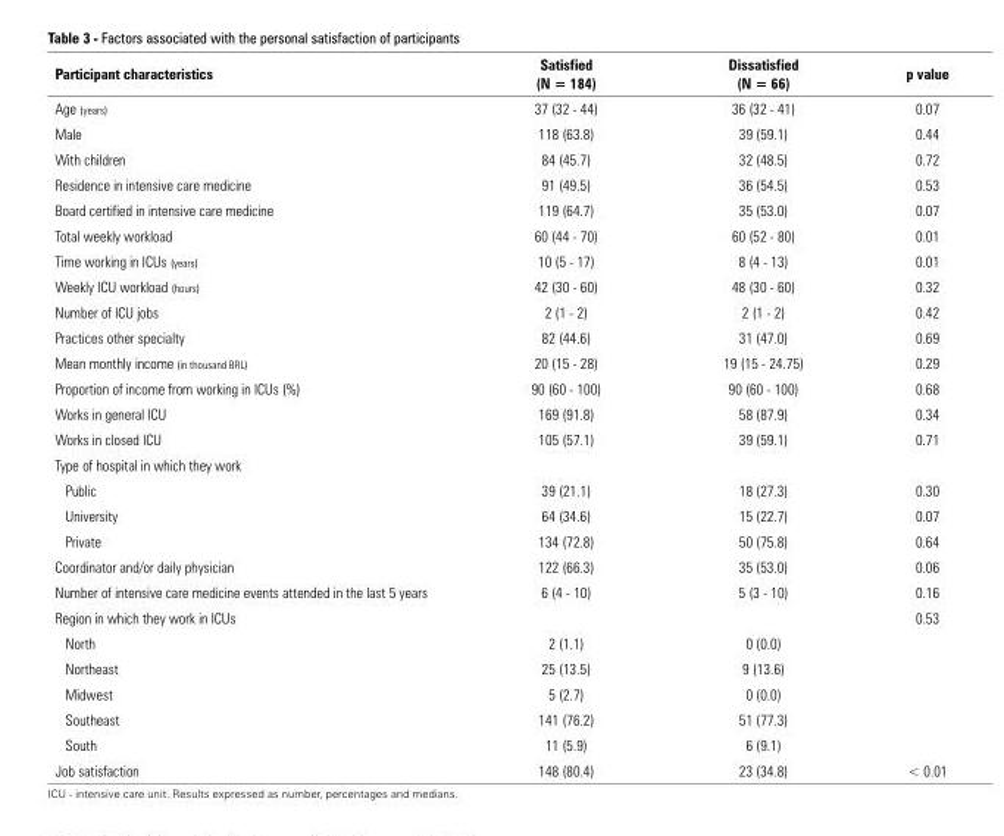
<table><thead><tr><td>Participant characteristics</td><td>Satisfied (N = 184)</td><td>Dissatisfied (N = 66)</td><td>p value</td></tr></thead><tbody><tr><td>Age (years)</td><td>37 (32 - 44)</td><td>36 (32 - 41)</td><td>0.07</td></tr><tr><td>Male</td><td>118 (63.8)</td><td>39 (59.1)</td><td>0.44</td></tr><tr><td>With children</td><td>84 (45.7)</td><td>32 (48.5)</td><td>0.72</td></tr><tr><td>Residence in intensive care medicine</td><td>91 (49.5)</td><td>36 (54.5)</td><td>0.53</td></tr><tr><td>Board certified in intensive care medicine</td><td>119 (64.7)</td><td>35 (53.0)</td><td>0.07</td></tr><tr><td>Total weekly workload</td><td>60 (44 - 70)</td><td>60 (52 - 80)</td><td>0.01</td></tr><tr><td>Time working in ICUs (years)</td><td>10 (5 - 17)</td><td>8 (4 - 13)</td><td>0.01</td></tr><tr><td>Weekly ICU workload (hours)</td><td>42 (30 - 60)</td><td>48 (30 - 60)</td><td>0.32</td></tr><tr><td>Number of ICU jobs</td><td>2 (1 - 2)</td><td>2 (1 - 2)</td><td>0.42</td></tr><tr><td>Practices other specialty</td><td>82 (44.6)</td><td>31 (47.0)</td><td>0.69</td></tr><tr><td>Mean monthly income (in thousand BRL)</td><td>20 (15 - 28)</td><td>19 (15 - 24.75)</td><td>0.29</td></tr><tr><td>Proportion of income from working in ICUs (%)</td><td>90 (60 - 100)</td><td>90 (60 - 100)</td><td>0.68</td></tr><tr><td>Works in general ICU</td><td>169 (91.8)</td><td>58 (87.9)</td><td>0.34</td></tr><tr><td>Works in closed ICU</td><td>105 (57.1)</td><td>39 (59.1)</td><td>0.71</td></tr><tr><td colspan="4">Type of hospital in which they work</td></tr><tr><td>Public</td><td>39 (21.1)</td><td>18 (27.3)</td><td>0.30</td></tr><tr><td>University</td><td>64 (34.6)</td><td>15 (22.7)</td><td>0.07</td></tr><tr><td>Private</td><td>134 (72.8)</td><td>50 (75.8)</td><td>0.64</td></tr><tr><td>Coordinator and/or daily physician</td><td>122 (66.3)</td><td>35 (53.0)</td><td>0.06</td></tr><tr><td>Number of intensive care medicine events attended in the last 5 years</td><td>6 (4 - 10)</td><td>5 (3 - 10)</td><td>0.16</td></tr><tr><td>Region in which they work in ICUs</td><td></td><td></td><td>0.53</td></tr><tr><td>North</td><td>2 (1.1)</td><td>0 (0.0)</td><td></td></tr><tr><td>Northeast</td><td>25 (13.5)</td><td>9 (13.6)</td><td></td></tr><tr><td>Midwest</td><td>5 (2.7)</td><td>0 (0.0)</td><td></td></tr><tr><td>Southeast</td><td>141 (76.2)</td><td>51 (77.3)</td><td></td></tr><tr><td>South</td><td>11 (5.9)</td><td>6 (9.1)</td><td></td></tr><tr><td>Job satisfaction</td><td>148 (80.4)</td><td>23 (34.8)</td><td>&lt; 0.01</td></tr></tbody></table>